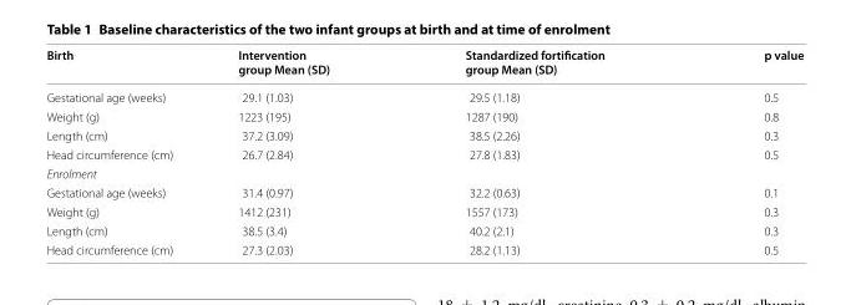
<table><thead><tr><td>Birth</td><td>Intervention group Mean (SD)</td><td>Standardized fortification group Mean (SD)</td><td>p value</td></tr></thead><tbody><tr><td>Gestational age (weeks)</td><td>29.1 (1.03)</td><td>29.5 (1.18)</td><td>0.5</td></tr><tr><td>Weight (g)</td><td>1223 (195)</td><td>1287 (190)</td><td>0.8</td></tr><tr><td>Length (cm)</td><td>37.2 (3.09)</td><td>38.5 (2.26)</td><td>0.3</td></tr><tr><td>Head circumference (cm)</td><td>26.7 (2.84)</td><td>27.8 (1.83)</td><td>0.5</td></tr><tr><td colspan="4">Enrolment</td></tr><tr><td>Gestational age (weeks)</td><td>31.4 (0.97)</td><td>32.2 (0.63)</td><td>0.1</td></tr><tr><td>Weight (g)</td><td>1412 (231)</td><td>1557 (173)</td><td>0.3</td></tr><tr><td>Length (cm)</td><td>38.5 (3.4)</td><td>40.2 (2.1)</td><td>0.3</td></tr><tr><td>Head circumference (cm)</td><td>27.3 (2.03)</td><td>28.2 (1.13)</td><td>0.5</td></tr></tbody></table>